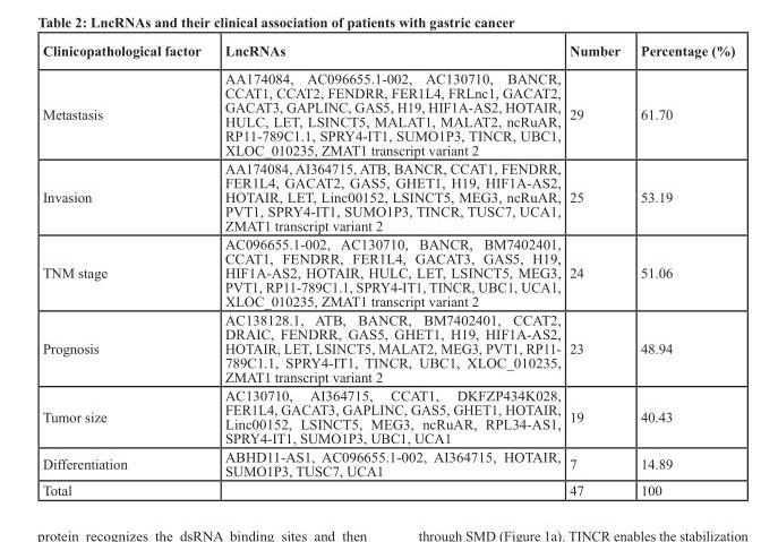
<table><thead><tr><td>Clinicopathological factor</td><td>LncRNAs</td><td>Number</td><td>Percentage (%)</td></tr></thead><tbody><tr><td>Metastasis</td><td>AA174084, AC096655.1-002, AC130710, BANCR, CCAT1, CCAT2, FENDRR, FER1L4, FRLnc1, GACAT2, GACAT3, GAPLINC, GAS5, H19, HIF1A-AS2, HOTAIR, HULC, LET, LSINCT5, MALAT1, MALAT2, ncRuAR, RP11-789C1.1, SPRY4-IT1, SUMO1P3, TINCR, UBC1, XLOC_010235, ZMAT1 transcript variant 2</td><td>29</td><td>61.70</td></tr><tr><td>Invasion</td><td>AA174084, AI364715, ATB, BANCR, CCAT1, FENDRR, FER1L4, GACAT2, GAS5, GHET1, H19, HIF1A-AS2, HOTAIR, LET, Linc00152, LSINCT5, MEG3, ncRuAR, PVT1, SPRY4-IT1, SUMO1P3, TINCR, TUSC7, UCA1, ZMAT1 transcript variant 2</td><td>25</td><td>53.19</td></tr><tr><td>TNM stage</td><td>AC096655.1-002, AC130710, BANCR, BM7402401, CCAT1, FENDRR, FER1L4, GACAT3, GAS5, H19, HIF1A-AS2, HOTAIR, HULC, LET, LSINCT5, MEG3, PVT1, RP11-789C1.1, SPRY4-IT1, TINCR, UBC1, UCA1, XLOC_010235, ZMAT1 transcript variant 2</td><td>24</td><td>51.06</td></tr><tr><td>Prognosis</td><td>AC138128.1, ATB, BANCR, BM7402401, CCAT2, DRAIC, FENDRR, GAS5, GHET1, H19, HIF1A-AS2, HOTAIR, LET, LSINCT5, MALAT2, MEG3, PVT1, RP11- 789C1.1, SPRY4-IT1, TINCR, UBC1, XLOC_010235, ZMAT1 transcript variant 2</td><td>23</td><td>48.94</td></tr><tr><td>Tumor size</td><td>AC130710, AI364715, CCAT1, DKFZP434K028, FER1L4, GACAT3, GAPLINC, GAS5, GHET1, HOTAIR, Linc00152, LSINCT5, MEG3, ncRuAR, RPL34-AS1, SPRY4-IT1, SUMO1P3, UBC1, UCA1</td><td>19</td><td>40.43</td></tr><tr><td>Differentiation</td><td>ABHD11-AS1, AC096655.1-002, AI364715, HOTAIR, SUMO1P3, TUSC7, UCA1</td><td>7</td><td>14.89</td></tr><tr><td>Total</td><td></td><td>47</td><td>100</td></tr></tbody></table>